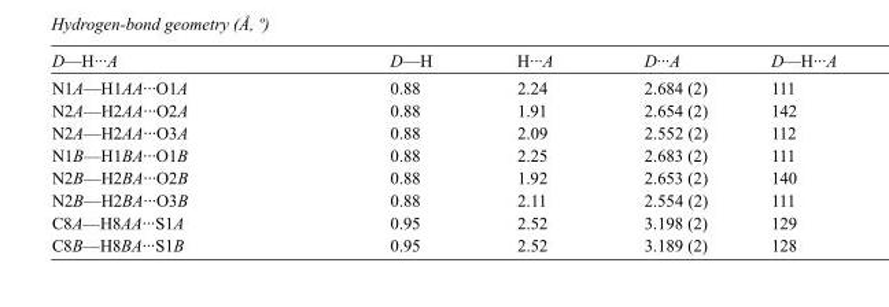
<table><tbody><tr><td>D—H···A</td><td>D—H</td><td>H···A</td><td>D···A</td><td>D—H···A</td></tr><tr><td>N1A—H1AA···O1A</td><td>0.88</td><td>2.24</td><td>2.684 (2)</td><td>111</td></tr><tr><td>N2A—H2AA···O2A</td><td>0.88</td><td>1.91</td><td>2.654 (2)</td><td>142</td></tr><tr><td>N2A—H2AA···O3A</td><td>0.88</td><td>2.09</td><td>2.552 (2)</td><td>112</td></tr><tr><td>N1B—H1BA···O1B</td><td>0.88</td><td>2.25</td><td>2.683 (2)</td><td>111</td></tr><tr><td>N2B—H2BA···O2B</td><td>0.88</td><td>1.92</td><td>2.653 (2)</td><td>140</td></tr><tr><td>N2B—H2BA···O3B</td><td>0.88</td><td>2.11</td><td>2.554 (2)</td><td>111</td></tr><tr><td>C8A—H8AA···S1A</td><td>0.95</td><td>2.52</td><td>3.198 (2)</td><td>129</td></tr><tr><td>C8B—H8BA···S1B</td><td>0.95</td><td>2.52</td><td>3.189 (2)</td><td>128</td></tr></tbody></table>